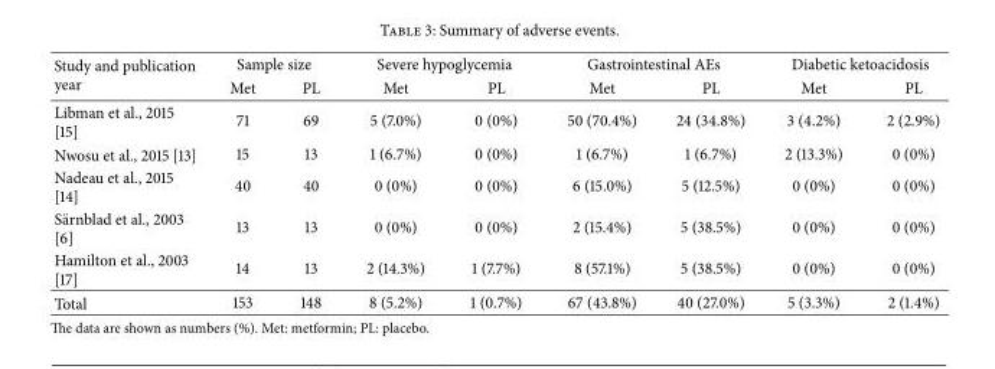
<table><thead><tr><td rowspan="2">Study and publication year</td><td colspan="2">Sample size</td><td colspan="2">Severe hypoglycemia</td><td colspan="2">Gastrointestinal AEs</td><td colspan="2">Diabetic ketoacidosis</td></tr><tr><td>Met</td><td>PL</td><td>Met</td><td>PL</td><td>Met</td><td>PL</td><td>Met</td><td>PL</td></tr></thead><tbody><tr><td>Libman et al., 2015 [15]</td><td>71</td><td>69</td><td>5 (7.0%)</td><td>0 (0%)</td><td>50 (70.4%)</td><td>24 (34.8%)</td><td>3 (4.2%)</td><td>2 (2.9%)</td></tr><tr><td>Nwosu et al., 2015 [13]</td><td>15</td><td>13</td><td>1 (6.7%)</td><td>0 (0%)</td><td>1 (6.7%)</td><td>1 (6.7%)</td><td>2 (13.3%)</td><td>0 (0%)</td></tr><tr><td>Nadeau et al., 2015 [14]</td><td>40</td><td>40</td><td>0 (0%)</td><td>0 (0%)</td><td>6 (15.0%)</td><td>5 (12.5%)</td><td>0 (0%)</td><td>0 (0%)</td></tr><tr><td>S¨arnblad et al., 2003 [6]</td><td>13</td><td>13</td><td>0 (0%)</td><td>0 (0%)</td><td>2 (15.4%)</td><td>5 (38.5%)</td><td>0 (0%)</td><td>0 (0%)</td></tr><tr><td>Hamilton et al., 2003 [17]</td><td>14</td><td>13</td><td>2 (14.3%)</td><td>1 (7.7%)</td><td>8 (57.1%)</td><td>5 (38.5%)</td><td>0 (0%)</td><td>0 (0%)</td></tr><tr><td>Total</td><td>153</td><td>148</td><td>8 (5.2%)</td><td>1 (0.7%)</td><td>67 (43.8%)</td><td>40 (27.0%)</td><td>5 (3.3%)</td><td>2 (1.4%)</td></tr></tbody></table>